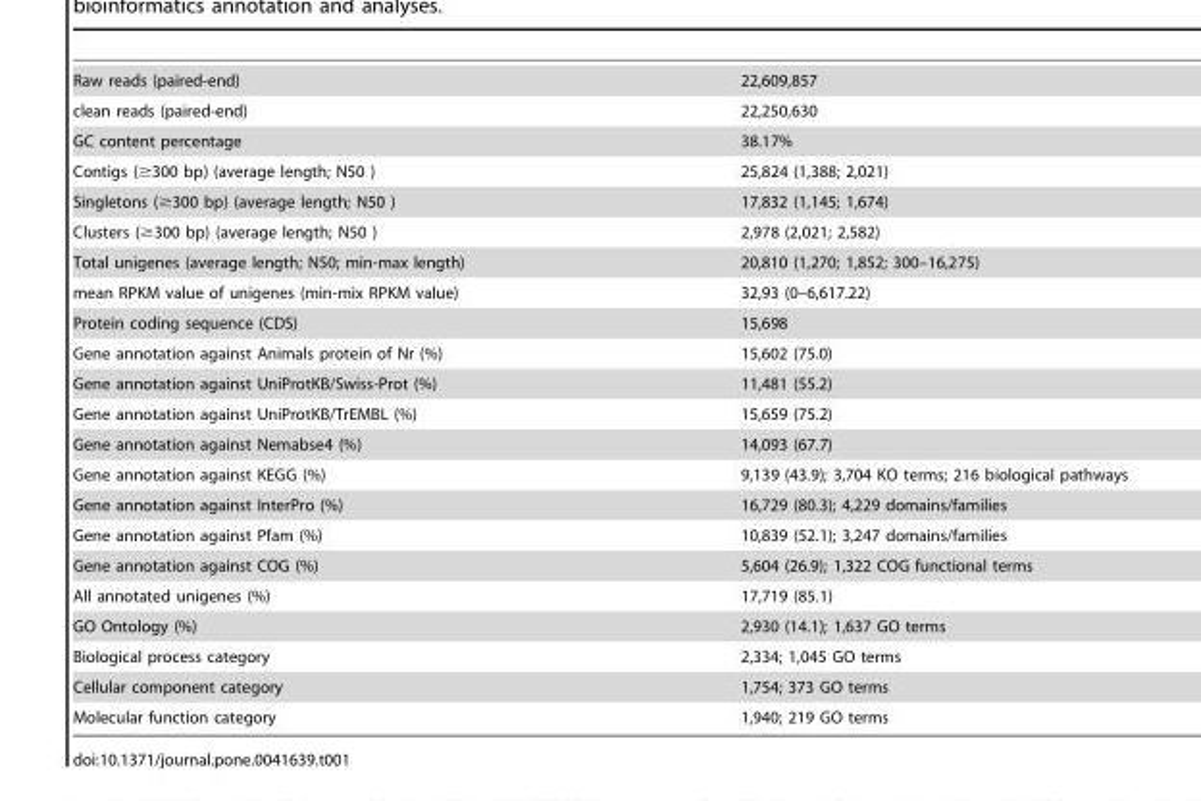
<table><tbody><tr><td>Raw reads (paired-end)</td><td>22,609,857</td></tr><tr><td>clean reads (paired-end)</td><td>22,250,630</td></tr><tr><td>GC content percentage</td><td>38.17%</td></tr><tr><td>Contigs (≥300 bp) (average length; N50 )</td><td>25,824 (1,388; 2,021)</td></tr><tr><td>Singletons (≥300 bp) (average length; N50 )</td><td>17,832 (1,145; 1,674)</td></tr><tr><td>Clusters (≥300 bp) (average length; N50 )</td><td>2,978 (2,021; 2,582)</td></tr><tr><td>Total unigenes (average length; N50; min-max length)</td><td>20,810 (1,270; 1,852; 300–16,275)</td></tr><tr><td>mean RPKM value of unigenes (min-mix RPKM value)</td><td>32,93 (0–6,617.22)</td></tr><tr><td>Protein coding sequence (CDS)</td><td>15,698</td></tr><tr><td>Gene annotation against Animals protein of Nr (%)</td><td>15,602 (75.0)</td></tr><tr><td>Gene annotation against UniProtKB/Swiss-Prot (%)</td><td>11,481 (55.2)</td></tr><tr><td>Gene annotation against UniProtKB/TrEMBL (%)</td><td>15,659 (75.2)</td></tr><tr><td>Gene annotation against Nemabse4 (%)</td><td>14,093 (67.7)</td></tr><tr><td>Gene annotation against KEGG (%)</td><td>9,139 (43.9); 3,704 KO terms; 216 biological pathways</td></tr><tr><td>Gene annotation against InterPro (%)</td><td>16,729 (80.3); 4,229 domains/families</td></tr><tr><td>Gene annotation against Pfam (%)</td><td>10,839 (52.1); 3,247 domains/families</td></tr><tr><td>Gene annotation against COG (%)</td><td>5,604 (26.9); 1,322 COG functional terms</td></tr><tr><td>All annotated unigenes (%)</td><td>17,719 (85.1)</td></tr><tr><td>GO Ontology (%)</td><td>2,930 (14.1); 1,637 GO terms</td></tr><tr><td>Biological process category</td><td>2,334; 1,045 GO terms</td></tr><tr><td>Cellular component category</td><td>1,754; 373 GO terms</td></tr><tr><td>Molecular function category</td><td>1,940; 219 GO terms</td></tr></tbody></table>